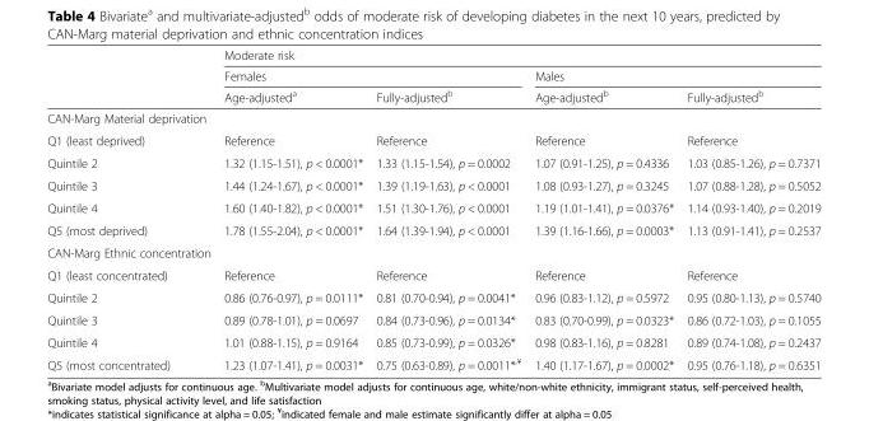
<table><thead><tr><td rowspan="3"></td><td colspan="4">Moderate risk</td></tr><tr><td colspan="2">Females</td><td colspan="2">Males</td></tr><tr><td>Age-adjusted<sup>a</sup></td><td>Fully-adjusted<sup>b</sup></td><td>Age-adjusted<sup>b</sup></td><td>Fully-adjusted<sup>b</sup></td></tr></thead><tbody><tr><td colspan="5">CAN-Marg Material deprivation</td></tr><tr><td>Q1 (least deprived)</td><td>Reference</td><td>Reference</td><td>Reference</td><td>Reference</td></tr><tr><td>Quintile 2</td><td>1.32 (1.15-1.51), p &lt; 0.0001*</td><td>1.33 (1.15-1.54), p = 0.0002</td><td>1.07 (0.91-1.25), p = 0.4336</td><td>1.03 (0.85-1.26), p = 0.7371</td></tr><tr><td>Quintile 3</td><td>1.44 (1.24-1.67), p &lt; 0.0001*</td><td>1.39 (1.19-1.63), p &lt; 0.0001</td><td>1.08 (0.93-1.27), p = 0.3245</td><td>1.07 (0.88-1.28), p = 0.5052</td></tr><tr><td>Quintile 4</td><td>1.60 (1.40-1.82), p &lt; 0.0001*</td><td>1.51 (1.30-1.76), p &lt; 0.0001</td><td>1.19 (1.01-1.41), p = 0.0376*</td><td>1.14 (0.93-1.40), p = 0.2019</td></tr><tr><td>Q5 (most deprived)</td><td>1.78 (1.55-2.04), p &lt; 0.0001*</td><td>1.64 (1.39-1.94), p &lt; 0.0001</td><td>1.39 (1.16-1.66), p = 0.0003*</td><td>1.13 (0.91-1.41), p = 0.2537</td></tr><tr><td colspan="5">CAN-Marg Ethnic concentration</td></tr><tr><td>Q1 (least concentrated)</td><td>Reference</td><td>Reference</td><td>Reference</td><td>Reference</td></tr><tr><td>Quintile 2</td><td>0.86 (0.76-0.97), p = 0.0111*</td><td>0.81 (0.70-0.94), p = 0.0041*</td><td>0.96 (0.83-1.12), p = 0.5972</td><td>0.95 (0.80-1.13), p = 0.5740</td></tr><tr><td>Quintile 3</td><td>0.89 (0.78-1.01), p = 0.0697</td><td>0.84 (0.73-0.96), p = 0.0134*</td><td>0.83 (0.70-0.99), p = 0.0323*</td><td>0.86 (0.72-1.03), p = 0.1055</td></tr><tr><td>Quintile 4</td><td>1.01 (0.88-1.15), p = 0.9164</td><td>0.85 (0.73-0.99), p = 0.0326*</td><td>0.98 (0.83-1.16), p = 0.8281</td><td>0.89 (0.74-1.08), p = 0.2437</td></tr><tr><td>Q5 (most concentrated)</td><td>1.23 (1.07-1.41), p = 0.0031*</td><td>0.75 (0.63-0.89), p = 0.0011*<sup>,¥</sup></td><td>1.40 (1.17-1.67), p = 0.0002*</td><td>0.95 (0.76-1.18), p = 0.6351</td></tr></tbody></table>